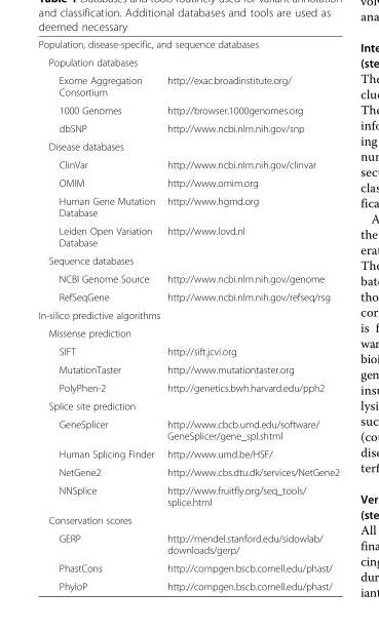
<table><tbody><tr><td colspan="2">Population, disease-specific, and sequence databases</td></tr><tr><td colspan="2">Population databases</td></tr><tr><td>Exome Aggregation Consortium</td><td>http://exac.broadinstitute.org/</td></tr><tr><td>1000 Genomes</td><td>http://browser.1000genomes.org</td></tr><tr><td>dbSNP</td><td>http://www.ncbi.nlm.nih.gov/snp</td></tr><tr><td colspan="2">Disease databases</td></tr><tr><td>ClinVar</td><td>http://www.ncbi.nlm.nih.gov/clinvar</td></tr><tr><td>OMIM</td><td>http://www.omim.org</td></tr><tr><td>Human Gene Mutation Database</td><td>http://www.hgmd.org</td></tr><tr><td>Leiden Open Variation Database</td><td>http://www.lovd.nl</td></tr><tr><td colspan="2">Sequence databases</td></tr><tr><td>NCBI Genome Source</td><td>http://www.ncbi.nlm.nih.gov/genome</td></tr><tr><td>RefSeqGene</td><td>http://www.ncbi.nlm.nih.gov/refseq/rsg</td></tr><tr><td colspan="2">In-silico predictive algorithms</td></tr><tr><td colspan="2">Missense prediction</td></tr><tr><td>SIFT</td><td>http://sift.jcvi.org</td></tr><tr><td>MutationTaster</td><td>http://www.mutationtaster.org</td></tr><tr><td>PolyPhen-2</td><td>http://genetics.bwh.harvard.edu/pph2</td></tr><tr><td colspan="2">Splice site prediction</td></tr><tr><td>GeneSplicer</td><td>http://www.cbcb.umd.edu/software/ GeneSplicer/gene_spl.shtml</td></tr><tr><td>Human Splicing Finder</td><td>http://www.umd.be/HSF/</td></tr><tr><td>NetGene2</td><td>http://www.cbs.dtu.dk/services/NetGene2</td></tr><tr><td>NNSplice</td><td>http://www.fruitfly.org/seq_tools/ splice.html</td></tr><tr><td colspan="2">Conservation scores</td></tr><tr><td>GERP</td><td>http://mendel.stanford.edu/sidowlab/ downloads/gerp/</td></tr><tr><td>PhastCons</td><td>http://compgen.bscb.cornell.edu/phast/</td></tr><tr><td>PhyloP</td><td>http://compgen.bscb.cornell.edu/phast/</td></tr></tbody></table>